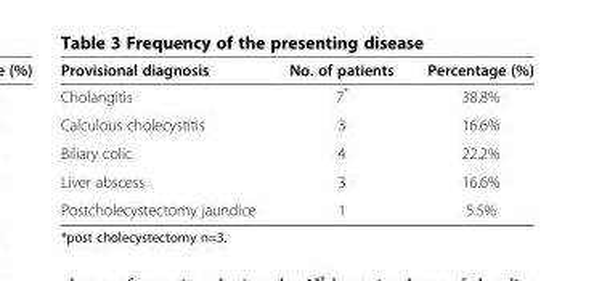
<table><thead><tr><td>Provisional diagnosis</td><td>No. of patients</td><td>Percentage (%)</td></tr></thead><tbody><tr><td>Cholangitis</td><td>7*</td><td>38.8%</td></tr><tr><td>Calculous cholecystitis</td><td>3</td><td>16.6%</td></tr><tr><td>Biliary colic</td><td>4</td><td>22.2%</td></tr><tr><td>Liver abscess</td><td>3</td><td>16.6%</td></tr><tr><td>Postcholecystectomy jaundice</td><td>1</td><td>5.5%</td></tr></tbody></table>